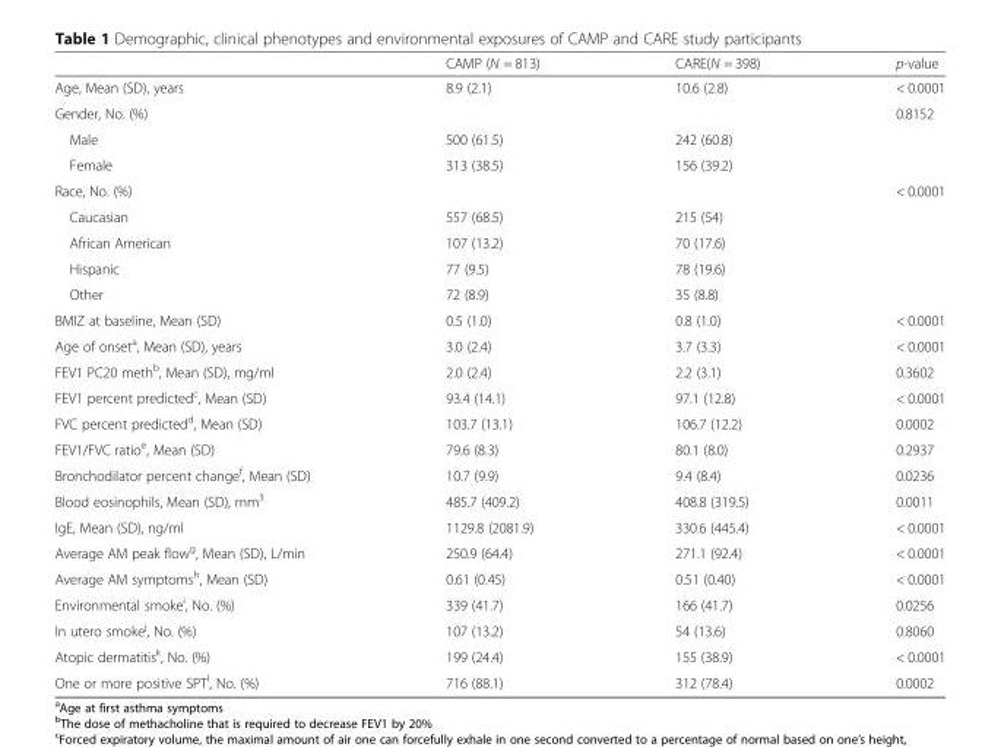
<table><thead><tr><td></td><td>CAMP (N = 813)</td><td>CARE(N = 398)</td><td>p-value</td></tr></thead><tbody><tr><td>Age, Mean (SD), years</td><td>8.9 (2.1)</td><td>10.6 (2.8)</td><td>&lt; 0.0001</td></tr><tr><td>Gender, No. (%)</td><td></td><td></td><td>0.8152</td></tr><tr><td>Male</td><td>500 (61.5)</td><td>242 (60.8)</td><td></td></tr><tr><td>Female</td><td>313 (38.5)</td><td>156 (39.2)</td><td></td></tr><tr><td>Race, No. (%)</td><td></td><td></td><td>&lt; 0.0001</td></tr><tr><td>Caucasian</td><td>557 (68.5)</td><td>215 (54)</td><td></td></tr><tr><td>African American</td><td>107 (13.2)</td><td>70 (17.6)</td><td></td></tr><tr><td>Hispanic</td><td>77 (9.5)</td><td>78 (19.6)</td><td></td></tr><tr><td>Other</td><td>72 (8.9)</td><td>35 (8.8)</td><td></td></tr><tr><td>BMIZ at baseline, Mean (SD)</td><td>0.5 (1.0)</td><td>0.8 (1.0)</td><td>&lt; 0.0001</td></tr><tr><td>Age of onset<sup>a</sup>, Mean (SD), years</td><td>3.0 (2.4)</td><td>3.7 (3.3)</td><td>&lt; 0.0001</td></tr><tr><td>FEV1 PC20 meth<sup>b</sup>, Mean (SD), mg/ml</td><td>2.0 (2.4)</td><td>2.2 (3.1)</td><td>0.3602</td></tr><tr><td>FEV1 percent predicted<sup>c</sup>, Mean (SD)</td><td>93.4 (14.1)</td><td>97.1 (12.8)</td><td>&lt; 0.0001</td></tr><tr><td>FVC percent predicted<sup>d</sup>, Mean (SD)</td><td>103.7 (13.1)</td><td>106.7 (12.2)</td><td>0.0002</td></tr><tr><td>FEV1/FVC ratio<sup>e</sup>, Mean (SD)</td><td>79.6 (8.3)</td><td>80.1 (8.0)</td><td>0.2937</td></tr><tr><td>Bronchodilator percent change<sup>f</sup>, Mean (SD)</td><td>10.7 (9.9)</td><td>9.4 (8.4)</td><td>0.0236</td></tr><tr><td>Blood eosinophils, Mean (SD), mm<sup>3</sup></td><td>485.7 (409.2)</td><td>408.8 (319.5)</td><td>0.0011</td></tr><tr><td>IgE, Mean (SD), ng/ml</td><td>1129.8 (2081.9)</td><td>330.6 (445.4)</td><td>&lt; 0.0001</td></tr><tr><td>Average AM peak flow<sup>g</sup>, Mean (SD), L/min</td><td>250.9 (64.4)</td><td>271.1 (92.4)</td><td>&lt; 0.0001</td></tr><tr><td>Average AM symptoms<sup>h</sup>, Mean (SD)</td><td>0.61 (0.45)</td><td>0.51 (0.40)</td><td>&lt; 0.0001</td></tr><tr><td>Environmental smoke<sup>i</sup>, No. (%)</td><td>339 (41.7)</td><td>166 (41.7)</td><td>0.0256</td></tr><tr><td>In utero smoke<sup>j</sup>, No. (%)</td><td>107 (13.2)</td><td>54 (13.6)</td><td>0.8060</td></tr><tr><td>Atopic dermatitis<sup>k</sup>, No. (%)</td><td>199 (24.4)</td><td>155 (38.9)</td><td>&lt; 0.0001</td></tr><tr><td>One or more positive SPT<sup>l</sup>, No. (%)</td><td>716 (88.1)</td><td>312 (78.4)</td><td>0.0002</td></tr></tbody></table>